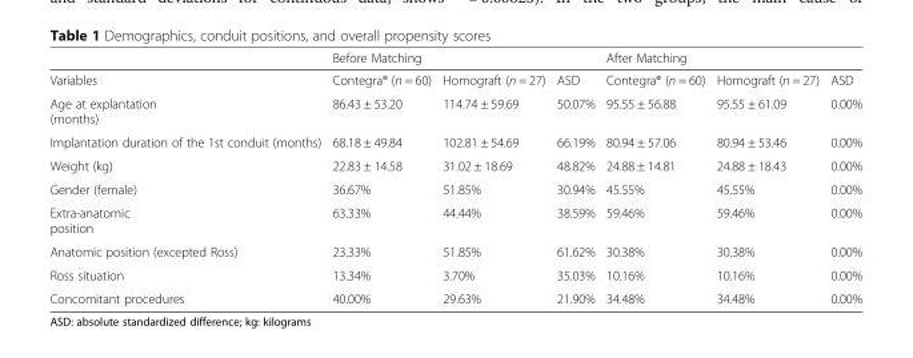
<table><thead><tr><td rowspan="2">Variables</td><td colspan="3">Before Matching</td><td colspan="3">After Matching</td></tr><tr><td>Contegra® (n = 60)</td><td>Homograft (n = 27)</td><td>ASD</td><td>Contegra® (n = 60)</td><td>Homograft (n = 27)</td><td>ASD</td></tr></thead><tbody><tr><td>Age at explantation (months)</td><td>86.43 ± 53.20</td><td>114.74 ± 59.69</td><td>50.07%</td><td>95.55 ± 56.88</td><td>95.55 ± 61.09</td><td>0.00%</td></tr><tr><td>Implantation duration of the 1st conduit (months)</td><td>68.18 ± 49.84</td><td>102.81 ± 54.69</td><td>66.19%</td><td>80.94 ± 57.06</td><td>80.94 ± 53.46</td><td>0.00%</td></tr><tr><td>Weight (kg)</td><td>22.83 ± 14.58</td><td>31.02 ± 18.69</td><td>48.82%</td><td>24.88 ± 14.81</td><td>24.88 ± 18.43</td><td>0.00%</td></tr><tr><td>Gender (female)</td><td>36.67%</td><td>51.85%</td><td>30.94%</td><td>45.55%</td><td>45.55%</td><td>0.00%</td></tr><tr><td>Extra-anatomic position</td><td>63.33%</td><td>44.44%</td><td>38.59%</td><td>59.46%</td><td>59.46%</td><td>0.00%</td></tr><tr><td>Anatomic position (excepted Ross)</td><td>23.33%</td><td>51.85%</td><td>61.62%</td><td>30.38%</td><td>30.38%</td><td>0.00%</td></tr><tr><td>Ross situation</td><td>13.34%</td><td>3.70%</td><td>35.03%</td><td>10.16%</td><td>10.16%</td><td>0.00%</td></tr><tr><td>Concomitant procedures</td><td>40.00%</td><td>29.63%</td><td>21.90%</td><td>34.48%</td><td>34.48%</td><td>0.00%</td></tr></tbody></table>